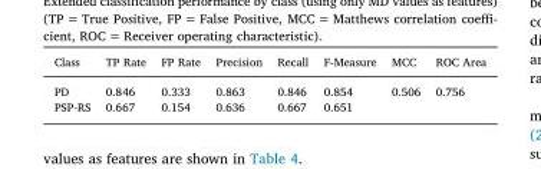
<table><thead><tr><td>Class</td><td>TP Rate</td><td>FP Rate</td><td>Precision</td><td>Recall</td><td>F-Measure</td><td>MCC</td><td>ROC Area</td></tr></thead><tbody><tr><td>PD</td><td>0.846</td><td>0.333</td><td>0.863</td><td>0.846</td><td>0.854</td><td rowspan="2">0.506</td><td rowspan="2">0.756</td></tr><tr><td>PSP-RS</td><td>0.667</td><td>0.154</td><td>0.636</td><td>0.667</td><td>0.651</td></tr></tbody></table>